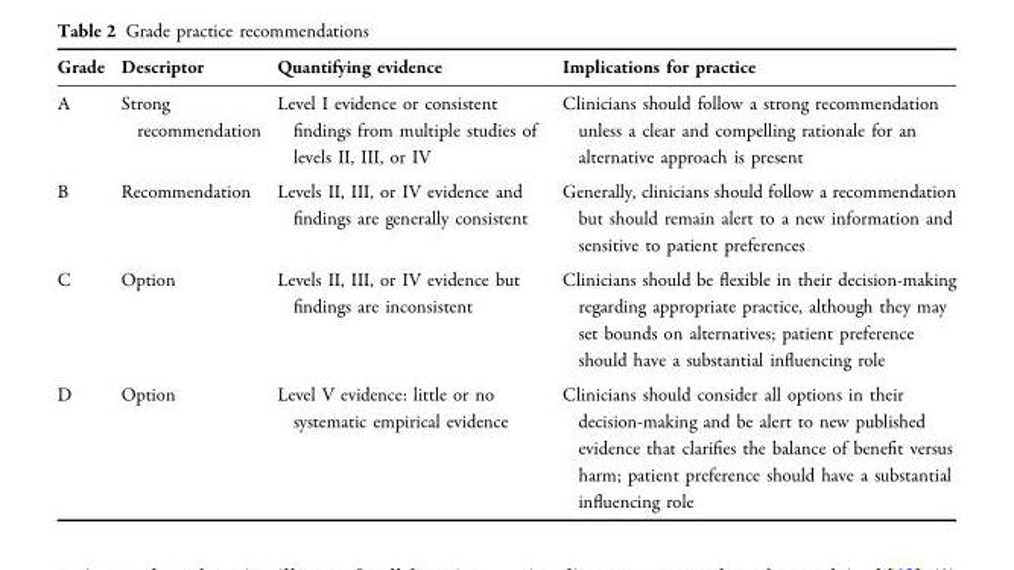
<table><thead><tr><td>Grade</td><td>Descriptor</td><td>Quantifying evidence</td><td>Implications for practice</td></tr></thead><tbody><tr><td>A</td><td>Strong recommendation</td><td>Level I evidence or consistent findings from multiple studies of levels II, III, or IV</td><td>Clinicians should follow a strong recommendation unless a clear and compelling rationale for an alternative approach is present</td></tr><tr><td>B</td><td>Recommendation</td><td>Levels II, III, or IV evidence and findings are generally consistent</td><td>Generally, clinicians should follow a recommendation but should remain alert to a new information and sensitive to patient preferences</td></tr><tr><td>C</td><td>Option</td><td>Levels II, III, or IV evidence but findings are inconsistent</td><td>Clinicians should be flexible in their decision-making regarding appropriate practice, although they may set bounds on alternatives; patient preference should have a substantial influencing role</td></tr><tr><td>D</td><td>Option</td><td>Level V evidence: little or no systematic empirical evidence</td><td>Clinicians should consider all options in their decision-making and be alert to new published evidence that clarifies the balance of benefit versus harm; patient preference should have a substantial influencing role</td></tr></tbody></table>